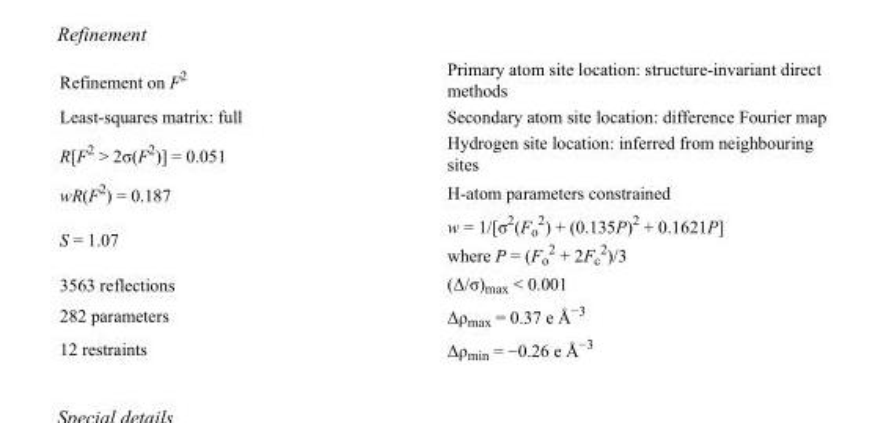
<table><tbody><tr><td>Refinement on F<sup>2</sup></td><td>Primary atom site location: structure-invariant direct methods</td></tr><tr><td>Least-squares matrix: full</td><td>Secondary atom site location: difference Fourier map</td></tr><tr><td>R[F<sup>2</sup> &gt; 2σ(F<sup>2</sup>)] = 0.051</td><td>Hydrogen site location: inferred from neighbouring sites</td></tr><tr><td>wR(F<sup>2</sup>) = 0.187</td><td>H-atom parameters constrained</td></tr><tr><td>S = 1.07</td><td>w = 1/[σ<sup>2</sup>(F<sub>o</sub> <sup>2</sup>) + (0.135P)<sup>2</sup> + 0.1621P] where P = (F<sub>o</sub> <sup>2</sup> + 2F<sub>c</sub> <sup>2</sup>)/3</td></tr><tr><td>3563 reflections</td><td>(Δ/σ)<sub>max</sub> &lt; 0.001</td></tr><tr><td>282 parameters</td><td>Δρ<sub>max</sub> = 0.37 e Å<sup>−3</sup></td></tr><tr><td>12 restraints</td><td>Δρ<sub>min</sub> = −0.26 e Å<sup>−3</sup></td></tr></tbody></table>